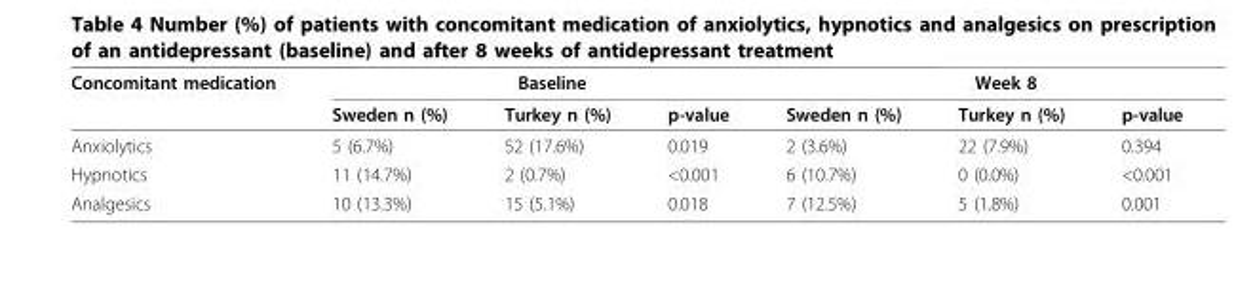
<table><thead><tr><td rowspan="2">Concomitant medication</td><td colspan="3">Baseline</td><td colspan="3">Week 8</td></tr><tr><td>Sweden n (%)</td><td>Turkey n (%)</td><td>p-value</td><td>Sweden n (%)</td><td>Turkey n (%)</td><td>p-value</td></tr></thead><tbody><tr><td>Anxiolytics</td><td>5 (6.7%)</td><td>52 (17.6%)</td><td>0.019</td><td>2 (3.6%)</td><td>22 (7.9%)</td><td>0.394</td></tr><tr><td>Hypnotics</td><td>11 (14.7%)</td><td>2 (0.7%)</td><td>&lt;0.001</td><td>6 (10.7%)</td><td>0 (0.0%)</td><td>&lt;0.001</td></tr><tr><td>Analgesics</td><td>10 (13.3%)</td><td>15 (5.1%)</td><td>0.018</td><td>7 (12.5%)</td><td>5 (1.8%)</td><td>0.001</td></tr></tbody></table>